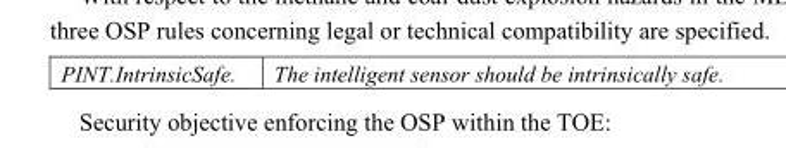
<table><tbody><tr><td>PINT.IntrinsicSafe.</td><td>The intelligent sensor should be intrinsically safe.</td></tr></tbody></table>